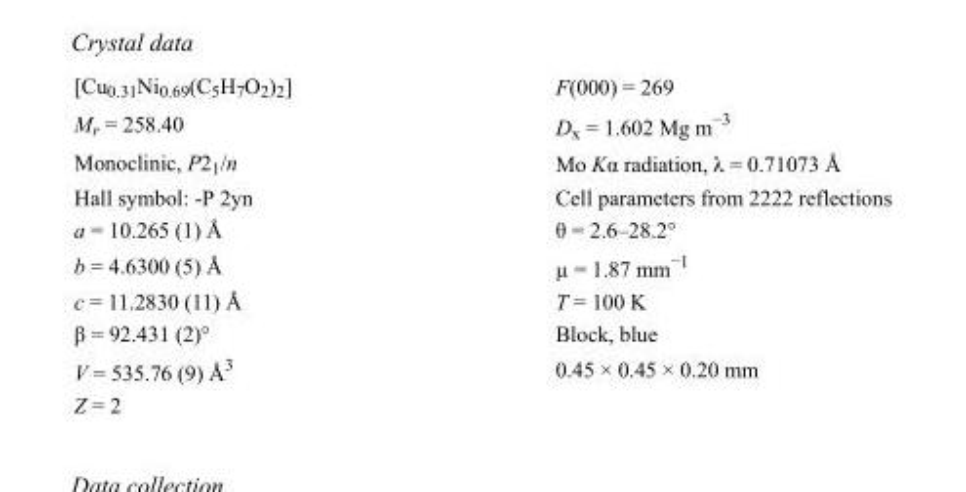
<table><tbody><tr><td>[Cu<sub>0.31</sub>Ni<sub>0.69</sub>(C<sub>5</sub>H<sub>7</sub>O<sub>2</sub>)<sub>2</sub>]</td><td>F(000) = 269</td></tr><tr><td>M<sub>r</sub> = 258.40</td><td>D<sub>x</sub> = 1.602 Mg m<sup>−3</sup></td></tr><tr><td>Monoclinic, P2<sub>1</sub>/n</td><td>Mo Kα radiation, λ = 0.71073 Å</td></tr><tr><td>Hall symbol: -P 2yn</td><td>Cell parameters from 2222 reflections</td></tr><tr><td>a = 10.265 (1) Å</td><td>θ = 2.6–28.2°</td></tr><tr><td>b = 4.6300 (5) Å</td><td>µ = 1.87 mm<sup>−1</sup></td></tr><tr><td>c = 11.2830 (11) Å</td><td>T = 100 K</td></tr><tr><td>β = 92.431 (2)°</td><td>Block, blue</td></tr><tr><td>V = 535.76 (9) Å<sup>3</sup></td><td>0.45 × 0.45 × 0.20 mm</td></tr><tr><td>Z = 2</td><td></td></tr></tbody></table>